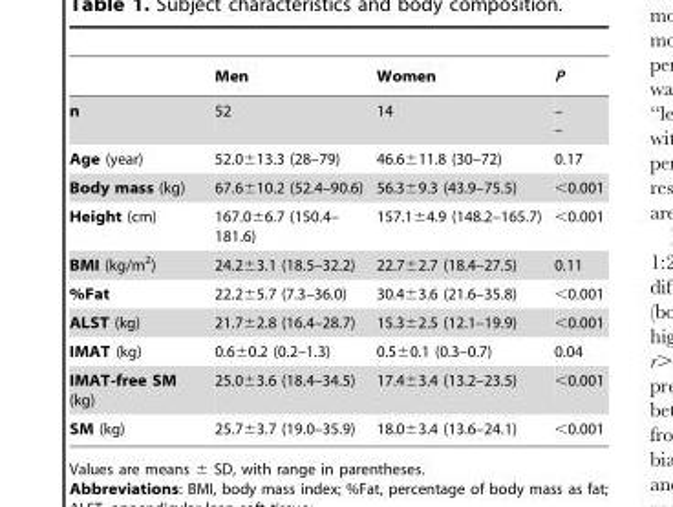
<table><thead><tr><td></td><td>Men</td><td>Women</td><td>P</td></tr></thead><tbody><tr><td>n</td><td>52</td><td>14</td><td>– –</td></tr><tr><td>Age (year)</td><td>52.0±13.3 (28–79)</td><td>46.6±11.8 (30–72)</td><td>0.17</td></tr><tr><td>Body mass (kg)</td><td>67.6±10.2 (52.4–90.6)</td><td>56.3±9.3 (43.9–75.5)</td><td>&lt;0.001</td></tr><tr><td>Height (cm)</td><td>167.0±6.7 (150.4– 181.6)</td><td>157.1±4.9 (148.2–165.7)</td><td>&lt;0.001</td></tr><tr><td>BMI (kg/m<sup>2</sup>)</td><td>24.2±3.1 (18.5–32.2)</td><td>22.7±2.7 (18.4–27.5)</td><td>0.11</td></tr><tr><td>%Fat</td><td>22.2±5.7 (7.3–36.0)</td><td>30.4±3.6 (21.6–35.8)</td><td>&lt;0.001</td></tr><tr><td>ALST (kg)</td><td>21.7±2.8 (16.4–28.7)</td><td>15.3±2.5 (12.1–19.9)</td><td>&lt;0.001</td></tr><tr><td>IMAT (kg)</td><td>0.6±0.2 (0.2–1.3)</td><td>0.5±0.1 (0.3–0.7)</td><td>0.04</td></tr><tr><td>IMAT-free SM (kg)</td><td>25.0±3.6 (18.4–34.5)</td><td>17.4±3.4 (13.2–23.5)</td><td>&lt;0.001</td></tr><tr><td>SM (kg)</td><td>25.7±3.7 (19.0–35.9)</td><td>18.0±3.4 (13.6–24.1)</td><td>&lt;0.001</td></tr></tbody></table>